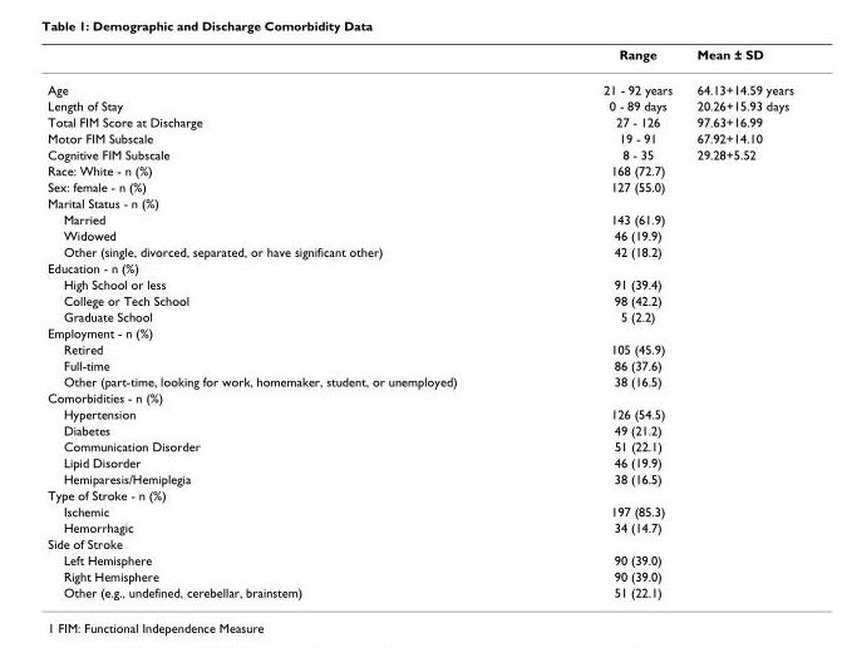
<table><thead><tr><td></td><td>Range</td><td>Mean ± SD</td></tr></thead><tbody><tr><td>Age</td><td>21 - 92 years</td><td>64.13+14.59 years</td></tr><tr><td>Length of Stay</td><td>0 - 89 days</td><td>20.26+15.93 days</td></tr><tr><td>Total FIM Score at Discharge</td><td>27 - 126</td><td>97.63+16.99</td></tr><tr><td>Motor FIM Subscale</td><td>19 - 91</td><td>67.92+14.10</td></tr><tr><td>Cognitive FIM Subscale</td><td>8 - 35</td><td>29.28+5.52</td></tr><tr><td>Race: White - n (%)</td><td>168 (72.7)</td><td></td></tr><tr><td>Sex: female - n (%)</td><td>127 (55.0)</td><td></td></tr><tr><td colspan="3">Marital Status - n (%)</td></tr><tr><td>Married</td><td>143 (61.9)</td><td></td></tr><tr><td>Widowed</td><td>46 (19.9)</td><td></td></tr><tr><td>Other (single, divorced, separated, or have significant other)</td><td>42 (18.2)</td><td></td></tr><tr><td colspan="3">Education - n (%)</td></tr><tr><td>High School or less</td><td>91 (39.4)</td><td></td></tr><tr><td>College or Tech School</td><td>98 (42.2)</td><td></td></tr><tr><td>Graduate School</td><td>5 (2.2)</td><td></td></tr><tr><td colspan="3">Employment - n (%)</td></tr><tr><td>Retired</td><td>105 (45.9)</td><td></td></tr><tr><td>Full-time</td><td>86 (37.6)</td><td></td></tr><tr><td>Other (part-time, looking for work, homemaker, student, or unemployed)</td><td>38 (16.5)</td><td></td></tr><tr><td colspan="3">Comorbidities - n (%)</td></tr><tr><td>Hypertension</td><td>126 (54.5)</td><td></td></tr><tr><td>Diabetes</td><td>49 (21.2)</td><td></td></tr><tr><td>Communication Disorder</td><td>51 (22.1)</td><td></td></tr><tr><td>Lipid Disorder</td><td>46 (19.9)</td><td></td></tr><tr><td>Hemiparesis/Hemiplegia</td><td>38 (16.5)</td><td></td></tr><tr><td colspan="3">Type of Stroke - n (%)</td></tr><tr><td>Ischemic</td><td>197 (85.3)</td><td></td></tr><tr><td>Hemorrhagic</td><td>34 (14.7)</td><td></td></tr><tr><td colspan="3">Side of Stroke</td></tr><tr><td>Left Hemisphere</td><td>90 (39.0)</td><td></td></tr><tr><td>Right Hemisphere</td><td>90 (39.0)</td><td></td></tr><tr><td>Other (e.g., undefined, cerebellar, brainstem)</td><td>51 (22.1)</td><td></td></tr></tbody></table>